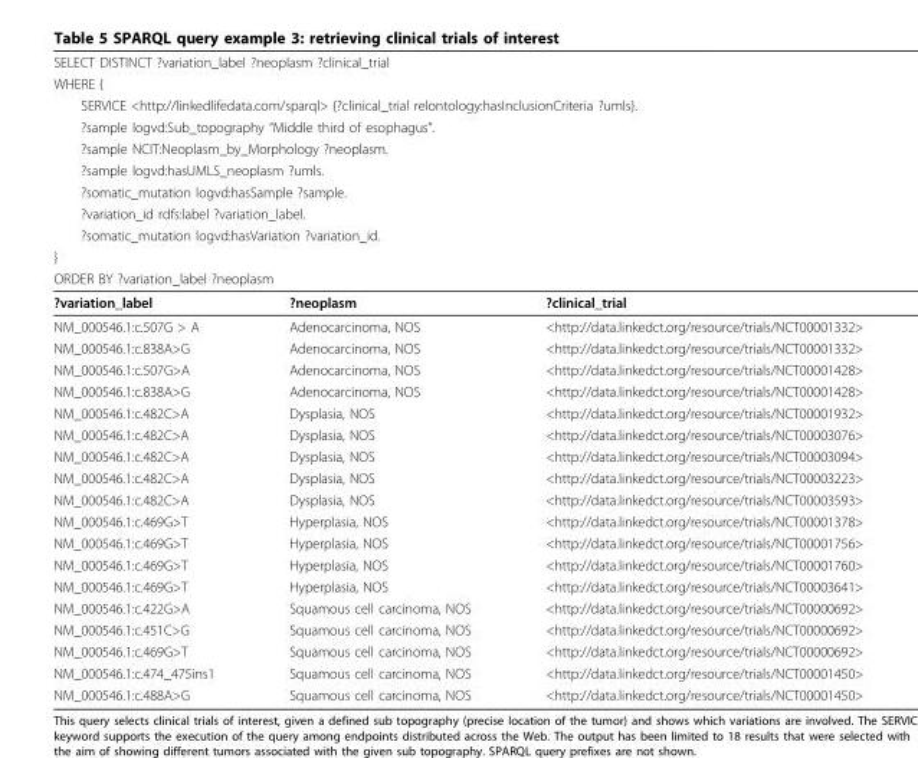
<table><thead><tr><td rowspan="11" colspan="3">SELECT DISTINCT ?variation_label ?neoplasm ?clinical_trial WHERE { SERVICE &lt;http://linkedlifedata.com/sparql&gt; {?clinical_trial relontology:hasInclusionCriteria ?umls}. ?sample logvd:Sub_topography “Middle third of esophagus”. ?sample NCIT:Neoplasm_by_Morphology ?neoplasm. ?sample logvd:hasUMLS_neoplasm ?umls. ?somatic_mutation logvd:hasSample ?sample. ?variation_id rdfs:label ?variation_label. ?somatic_mutation logvd:hasVariation ?variation_id. } ORDER BY ?variation_label ?neoplasm</td></tr><tr></tr><tr></tr><tr></tr><tr></tr><tr></tr><tr></tr><tr></tr><tr></tr><tr></tr><tr></tr><tr><td>?variation_label</td><td>?neoplasm</td><td>?clinical_trial</td></tr></thead><tbody><tr><td>NM_000546.1:c.507G &gt; A</td><td>Adenocarcinoma, NOS</td><td>&lt;http://data.linkedct.org/resource/trials/NCT00001332&gt;</td></tr><tr><td>NM_000546.1:c.838A&gt;G</td><td>Adenocarcinoma, NOS</td><td>&lt;http://data.linkedct.org/resource/trials/NCT00001332&gt;</td></tr><tr><td>NM_000546.1:c.507G&gt;A</td><td>Adenocarcinoma, NOS</td><td>&lt;http://data.linkedct.org/resource/trials/NCT00001428&gt;</td></tr><tr><td>NM_000546.1:c.838A&gt;G</td><td>Adenocarcinoma, NOS</td><td>&lt;http://data.linkedct.org/resource/trials/NCT00001428&gt;</td></tr><tr><td>NM_000546.1:c.482C&gt;A</td><td>Dysplasia, NOS</td><td>&lt;http://data.linkedct.org/resource/trials/NCT00001932&gt;</td></tr><tr><td>NM_000546.1:c.482C&gt;A</td><td>Dysplasia, NOS</td><td>&lt;http://data.linkedct.org/resource/trials/NCT00003076&gt;</td></tr><tr><td>NM_000546.1:c.482C&gt;A</td><td>Dysplasia, NOS</td><td>&lt;http://data.linkedct.org/resource/trials/NCT00003094&gt;</td></tr><tr><td>NM_000546.1:c.482C&gt;A</td><td>Dysplasia, NOS</td><td>&lt;http://data.linkedct.org/resource/trials/NCT00003223&gt;</td></tr><tr><td>NM_000546.1:c.482C&gt;A</td><td>Dysplasia, NOS</td><td>&lt;http://data.linkedct.org/resource/trials/NCT00003593&gt;</td></tr><tr><td>NM_000546.1:c.469G&gt;T</td><td>Hyperplasia, NOS</td><td>&lt;http://data.linkedct.org/resource/trials/NCT00001378&gt;</td></tr><tr><td>NM_000546.1:c.469G&gt;T</td><td>Hyperplasia, NOS</td><td>&lt;http://data.linkedct.org/resource/trials/NCT00001756&gt;</td></tr><tr><td>NM_000546.1:c.469G&gt;T</td><td>Hyperplasia, NOS</td><td>&lt;http://data.linkedct.org/resource/trials/NCT00001760&gt;</td></tr><tr><td>NM_000546.1:c.469G&gt;T</td><td>Hyperplasia, NOS</td><td>&lt;http://data.linkedct.org/resource/trials/NCT00003641&gt;</td></tr><tr><td>NM_000546.1:c.422G&gt;A</td><td>Squamous cell carcinoma, NOS</td><td>&lt;http://data.linkedct.org/resource/trials/NCT00000692&gt;</td></tr><tr><td>NM_000546.1:c.451C&gt;G</td><td>Squamous cell carcinoma, NOS</td><td>&lt;http://data.linkedct.org/resource/trials/NCT00000692&gt;</td></tr><tr><td>NM_000546.1:c.469G&gt;T</td><td>Squamous cell carcinoma, NOS</td><td>&lt;http://data.linkedct.org/resource/trials/NCT00000692&gt;</td></tr><tr><td>NM_000546.1:c.474_475ins1</td><td>Squamous cell carcinoma, NOS</td><td>&lt;http://data.linkedct.org/resource/trials/NCT00001450&gt;</td></tr><tr><td>NM_000546.1:c.488A&gt;G</td><td>Squamous cell carcinoma, NOS</td><td>&lt;http://data.linkedct.org/resource/trials/NCT00001450&gt;</td></tr></tbody></table>